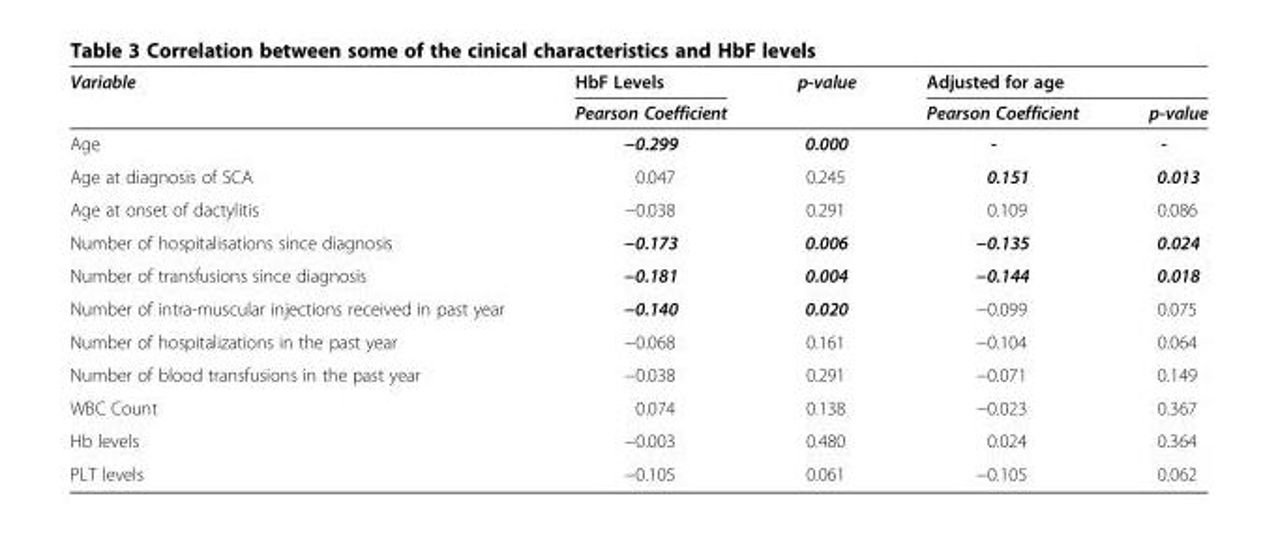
<table><thead><tr><td rowspan="2">Variable</td><td rowspan="2">HbF Levels Pearson Coefficient</td><td rowspan="2">p-value</td><td colspan="2">Adjusted for age</td></tr><tr><td>Pearson Coefficient</td><td>p-value</td></tr></thead><tbody><tr><td>Age</td><td>−0.299</td><td>0.000</td><td>-</td><td>-</td></tr><tr><td>Age at diagnosis of SCA</td><td>0.047</td><td>0.245</td><td>0.151</td><td>0.013</td></tr><tr><td>Age at onset of dactylitis</td><td>−0.038</td><td>0.291</td><td>0.109</td><td>0.086</td></tr><tr><td>Number of hospitalisations since diagnosis</td><td>−0.173</td><td>0.006</td><td>−0.135</td><td>0.024</td></tr><tr><td>Number of transfusions since diagnosis</td><td>−0.181</td><td>0.004</td><td>−0.144</td><td>0.018</td></tr><tr><td>Number of intra-muscular injections received in past year</td><td>−0.140</td><td>0.020</td><td>−0.099</td><td>0.075</td></tr><tr><td>Number of hospitalizations in the past year</td><td>−0.068</td><td>0.161</td><td>−0.104</td><td>0.064</td></tr><tr><td>Number of blood transfusions in the past year</td><td>−0.038</td><td>0.291</td><td>−0.071</td><td>0.149</td></tr><tr><td>WBC Count</td><td>0.074</td><td>0.138</td><td>−0.023</td><td>0.367</td></tr><tr><td>Hb levels</td><td>−0.003</td><td>0.480</td><td>0.024</td><td>0.364</td></tr><tr><td>PLT levels</td><td>−0.105</td><td>0.061</td><td>−0.105</td><td>0.062</td></tr></tbody></table>